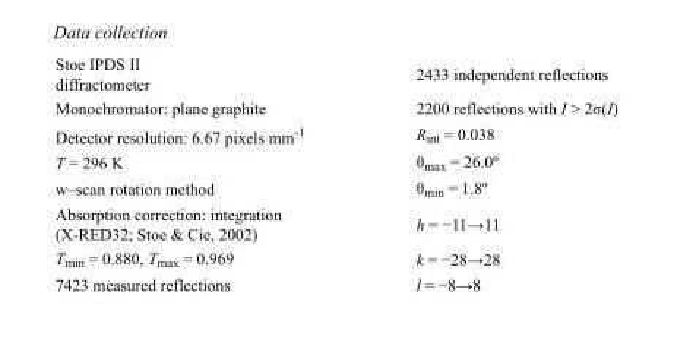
<table><tbody><tr><td>Stoe IPDS II diffractometer</td><td>2433 independent reflections</td></tr><tr><td>Monochromator: plane graphite</td><td>2200 reflections with I &gt; 2σ(I)</td></tr><tr><td>Detector resolution: 6.67 pixels mm<sup>-1</sup></td><td>R<sub>int</sub> = 0.038</td></tr><tr><td>T = 296 K</td><td>θ<sub>max</sub> = 26.0º</td></tr><tr><td>w–scan rotation method</td><td>θ<sub>min</sub> = 1.8º</td></tr><tr><td>Absorption correction: integration (X-RED32; Stoe &amp; Cie, 2002)</td><td>h = −11→11</td></tr><tr><td>T<sub>min</sub> = 0.880, T<sub>max</sub> = 0.969</td><td>k = −28→28</td></tr><tr><td>7423 measured reflections</td><td>l = −8→8</td></tr></tbody></table>